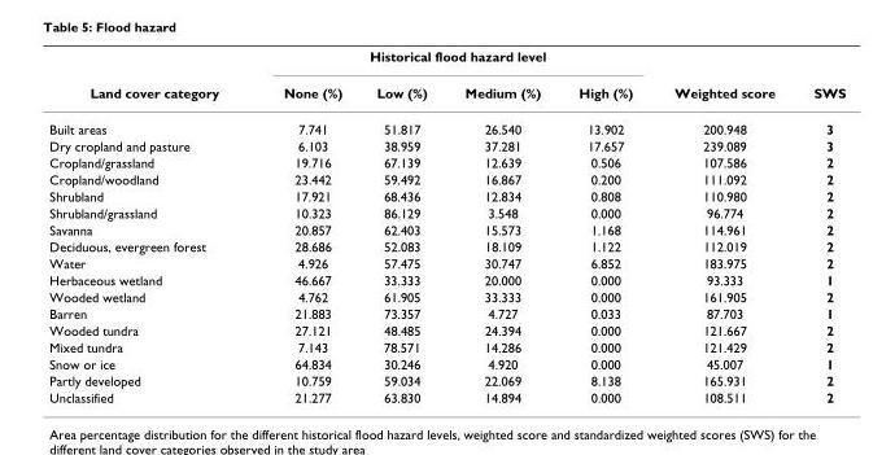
<table><thead><tr><td rowspan="2">Land cover category</td><td colspan="4">Historical flood hazard level</td><td rowspan="2">Weighted score</td><td rowspan="2">SWS</td></tr><tr><td>None (%)</td><td>Low (%)</td><td>Medium (%)</td><td>High (%)</td></tr></thead><tbody><tr><td>Built areas</td><td>7.741</td><td>51.817</td><td>26.540</td><td>13.902</td><td>200.948</td><td>3</td></tr><tr><td>Dry cropland and pasture</td><td>6.103</td><td>38.959</td><td>37.281</td><td>17.657</td><td>239.089</td><td>3</td></tr><tr><td>Cropland/grassland</td><td>19.716</td><td>67.139</td><td>12.639</td><td>0.506</td><td>107.586</td><td>2</td></tr><tr><td>Cropland/woodland</td><td>23.442</td><td>59.492</td><td>16.867</td><td>0.200</td><td>111.092</td><td>2</td></tr><tr><td>Shrubland</td><td>17.921</td><td>68.436</td><td>12.834</td><td>0.808</td><td>110.980</td><td>2</td></tr><tr><td>Shrubland/grassland</td><td>10.323</td><td>86.129</td><td>3.548</td><td>0.000</td><td>96.774</td><td>2</td></tr><tr><td>Savanna</td><td>20.857</td><td>62.403</td><td>15.573</td><td>1.168</td><td>114.961</td><td>2</td></tr><tr><td>Deciduous, evergreen forest</td><td>28.686</td><td>52.083</td><td>18.109</td><td>1.122</td><td>112.019</td><td>2</td></tr><tr><td>Water</td><td>4.926</td><td>57.475</td><td>30.747</td><td>6.852</td><td>183.975</td><td>2</td></tr><tr><td>Herbaceous wetland</td><td>46.667</td><td>33.333</td><td>20.000</td><td>0.000</td><td>93.333</td><td>1</td></tr><tr><td>Wooded wetland</td><td>4.762</td><td>61.905</td><td>33.333</td><td>0.000</td><td>161.905</td><td>2</td></tr><tr><td>Barren</td><td>21.883</td><td>73.357</td><td>4.727</td><td>0.033</td><td>87.703</td><td>1</td></tr><tr><td>Wooded tundra</td><td>27.121</td><td>48.485</td><td>24.394</td><td>0.000</td><td>121.667</td><td>2</td></tr><tr><td>Mixed tundra</td><td>7.143</td><td>78.571</td><td>14.286</td><td>0.000</td><td>121.429</td><td>2</td></tr><tr><td>Snow or ice</td><td>64.834</td><td>30.246</td><td>4.920</td><td>0.000</td><td>45.007</td><td>1</td></tr><tr><td>Partly developed</td><td>10.759</td><td>59.034</td><td>22.069</td><td>8.138</td><td>165.931</td><td>2</td></tr><tr><td>Unclassified</td><td>21.277</td><td>63.830</td><td>14.894</td><td>0.000</td><td>108.511</td><td>2</td></tr></tbody></table>